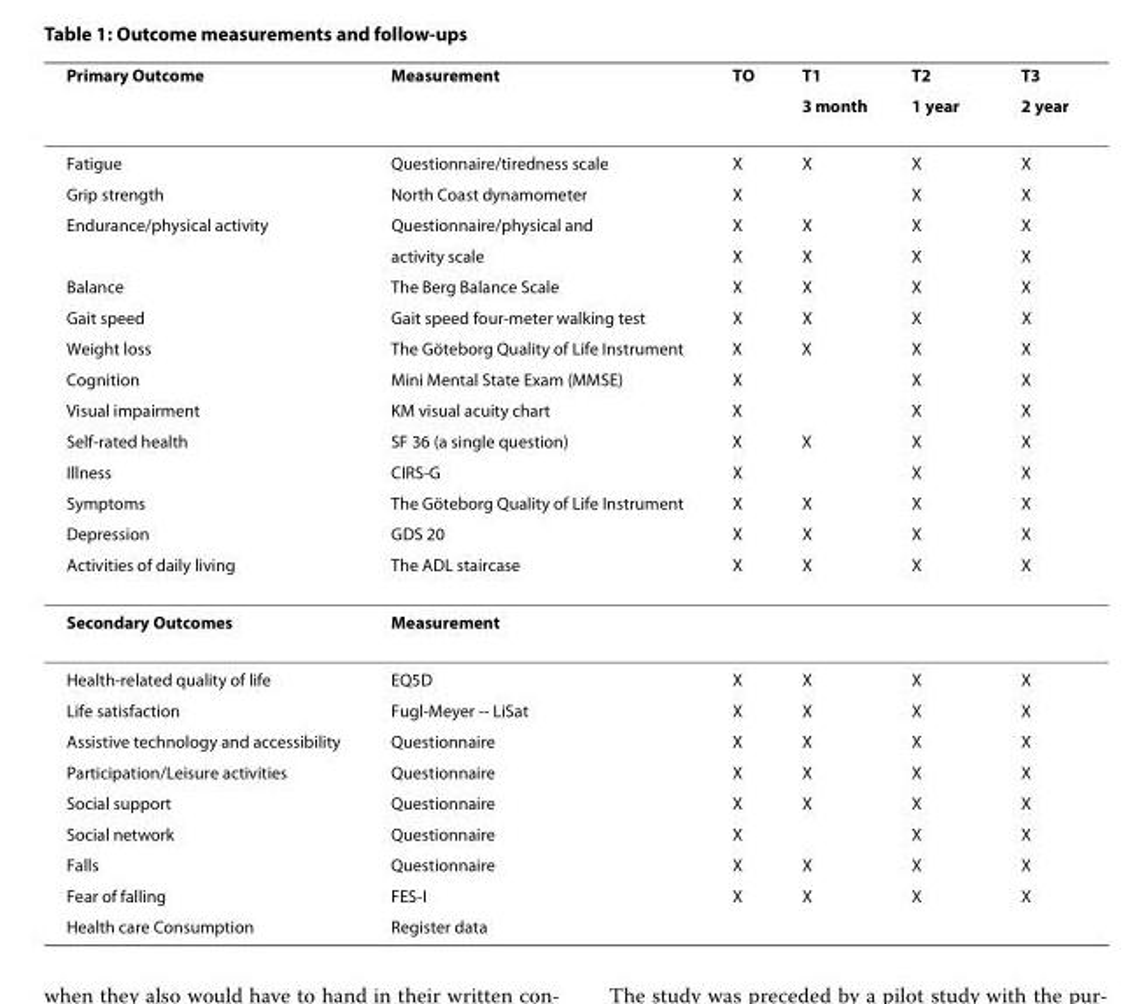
<table><thead><tr><td rowspan="2">Primary Outcome</td><td rowspan="2">Measurement</td><td rowspan="2">TO</td><td rowspan="2">T1 3 month</td><td rowspan="2">T2 1 year</td><td rowspan="2">T3 2 year</td></tr><tr></tr></thead><tbody><tr><td>Fatigue</td><td>Questionnaire/tiredness scale</td><td>X</td><td>X</td><td>X</td><td>X</td></tr><tr><td>Grip strength</td><td>North Coast dynamometer</td><td>X</td><td></td><td>X</td><td>X</td></tr><tr><td rowspan="2">Endurance/physical activity</td><td>Questionnaire/physical and</td><td>X</td><td>X</td><td>X</td><td>X</td></tr><tr><td>activity scale</td><td>X</td><td>X</td><td>X</td><td>X</td></tr><tr><td>Balance</td><td>The Berg Balance Scale</td><td>X</td><td>X</td><td>X</td><td>X</td></tr><tr><td>Gait speed</td><td>Gait speed four-meter walking test</td><td>X</td><td>X</td><td>X</td><td>X</td></tr><tr><td>Weight loss</td><td>The Göteborg Quality of Life Instrument</td><td>X</td><td>X</td><td>X</td><td>X</td></tr><tr><td>Cognition</td><td>Mini Mental State Exam (MMSE)</td><td>X</td><td></td><td>X</td><td>X</td></tr><tr><td>Visual impairment</td><td>KM visual acuity chart</td><td>X</td><td></td><td>X</td><td>X</td></tr><tr><td>Self-rated health</td><td>SF 36 (a single question)</td><td>X</td><td>X</td><td>X</td><td>X</td></tr><tr><td>Illness</td><td>CIRS-G</td><td>X</td><td></td><td>X</td><td>X</td></tr><tr><td>Symptoms</td><td>The Göteborg Quality of Life Instrument</td><td>X</td><td>X</td><td>X</td><td>X</td></tr><tr><td>Depression</td><td>GDS 20</td><td>X</td><td>X</td><td>X</td><td>X</td></tr><tr><td>Activities of daily living</td><td>The ADL staircase</td><td>X</td><td>X</td><td>X</td><td>X</td></tr><tr><td>Secondary Outcomes</td><td>Measurement</td><td></td><td></td><td></td><td></td></tr><tr><td>Health-related quality of life</td><td>EQ5D</td><td>X</td><td>X</td><td>X</td><td>X</td></tr><tr><td>Life satisfaction</td><td>Fugl-Meyer -- LiSat</td><td>X</td><td>X</td><td>X</td><td>X</td></tr><tr><td>Assistive technology and accessibility</td><td>Questionnaire</td><td>X</td><td>X</td><td>X</td><td>X</td></tr><tr><td>Participation/Leisure activities</td><td>Questionnaire</td><td>X</td><td>X</td><td>X</td><td>X</td></tr><tr><td>Social support</td><td>Questionnaire</td><td>X</td><td>X</td><td>X</td><td>X</td></tr><tr><td>Social network</td><td>Questionnaire</td><td>X</td><td></td><td>X</td><td>X</td></tr><tr><td>Falls</td><td>Questionnaire</td><td>X</td><td>X</td><td>X</td><td>X</td></tr><tr><td>Fear of falling</td><td>FES-I</td><td>X</td><td>X</td><td>X</td><td>X</td></tr><tr><td>Health care Consumption</td><td>Register data</td><td></td><td></td><td></td><td></td></tr></tbody></table>